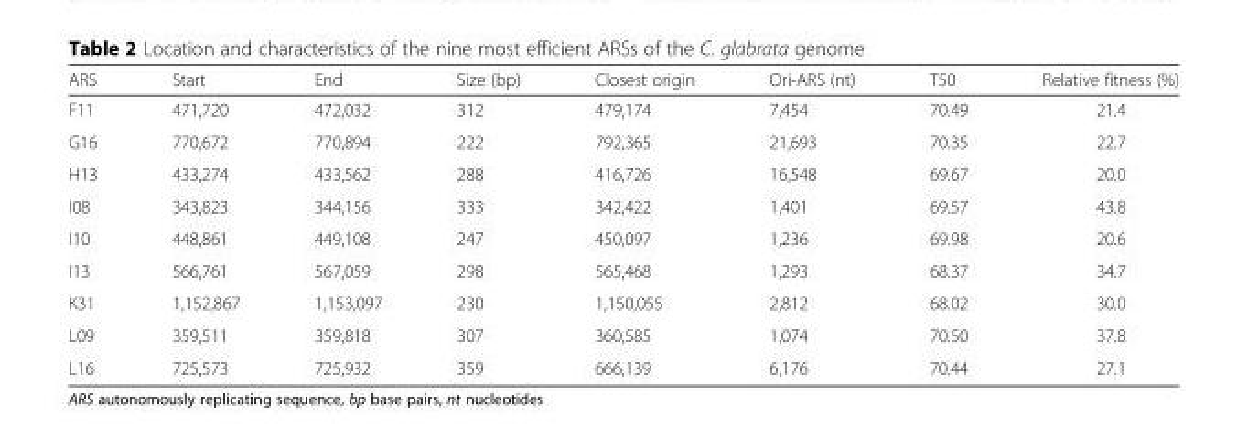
<table><thead><tr><td>ARS</td><td>Start</td><td>End</td><td>Size (bp)</td><td>Closest origin</td><td>Ori-ARS (nt)</td><td>T50</td><td>Relative fitness (%)</td></tr></thead><tbody><tr><td>F11</td><td>471,720</td><td>472,032</td><td>312</td><td>479,174</td><td>7,454</td><td>70.49</td><td>21.4</td></tr><tr><td>G16</td><td>770,672</td><td>770,894</td><td>222</td><td>792,365</td><td>21,693</td><td>70.35</td><td>22.7</td></tr><tr><td>H13</td><td>433,274</td><td>433,562</td><td>288</td><td>416,726</td><td>16,548</td><td>69.67</td><td>20.0</td></tr><tr><td>I08</td><td>343,823</td><td>344,156</td><td>333</td><td>342,422</td><td>1,401</td><td>69.57</td><td>43.8</td></tr><tr><td>I10</td><td>448,861</td><td>449,108</td><td>247</td><td>450,097</td><td>1,236</td><td>69.98</td><td>20.6</td></tr><tr><td>I13</td><td>566,761</td><td>567,059</td><td>298</td><td>565,468</td><td>1,293</td><td>68.37</td><td>34.7</td></tr><tr><td>K31</td><td>1,152,867</td><td>1,153,097</td><td>230</td><td>1,150,055</td><td>2,812</td><td>68.02</td><td>30.0</td></tr><tr><td>L09</td><td>359,511</td><td>359,818</td><td>307</td><td>360,585</td><td>1,074</td><td>70.50</td><td>37.8</td></tr><tr><td>L16</td><td>725,573</td><td>725,932</td><td>359</td><td>666,139</td><td>6,176</td><td>70.44</td><td>27.1</td></tr></tbody></table>